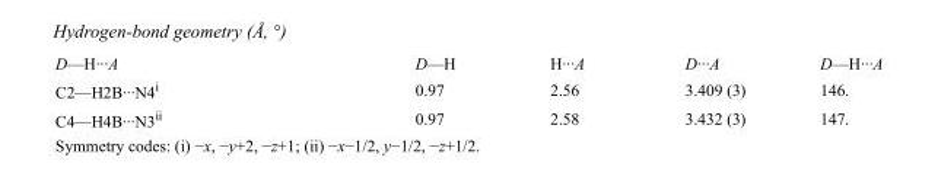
<table><tbody><tr><td>D—H···A</td><td>D—H</td><td>H···A</td><td>D···A</td><td>D—H···A</td></tr><tr><td>C2—H2B···N4<sup>i</sup></td><td>0.97</td><td>2.56</td><td>3.409 (3)</td><td>146.</td></tr><tr><td>C4—H4B···N3<sup>ii</sup></td><td>0.97</td><td>2.58</td><td>3.432 (3)</td><td>147.</td></tr></tbody></table>